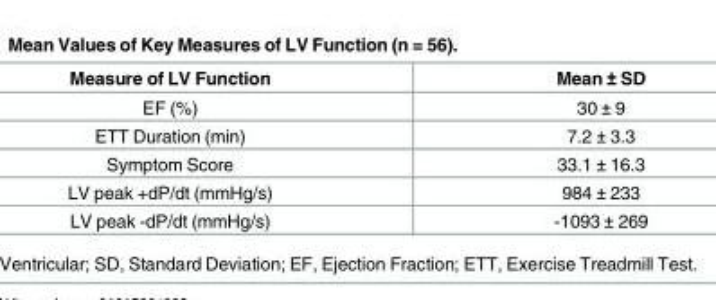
<table><thead><tr><td>Measure of LV Function</td><td>Mean ± SD</td></tr></thead><tbody><tr><td>EF (%)</td><td>30 ± 9</td></tr><tr><td>ETT Duration (min)</td><td>7.2 ± 3.3</td></tr><tr><td>Symptom Score</td><td>33.1 ± 16.3</td></tr><tr><td>LV peak +dP/dt (mmHg/s)</td><td>984 ± 233</td></tr><tr><td>LV peak -dP/dt (mmHg/s)</td><td>-1093 ± 269</td></tr></tbody></table>